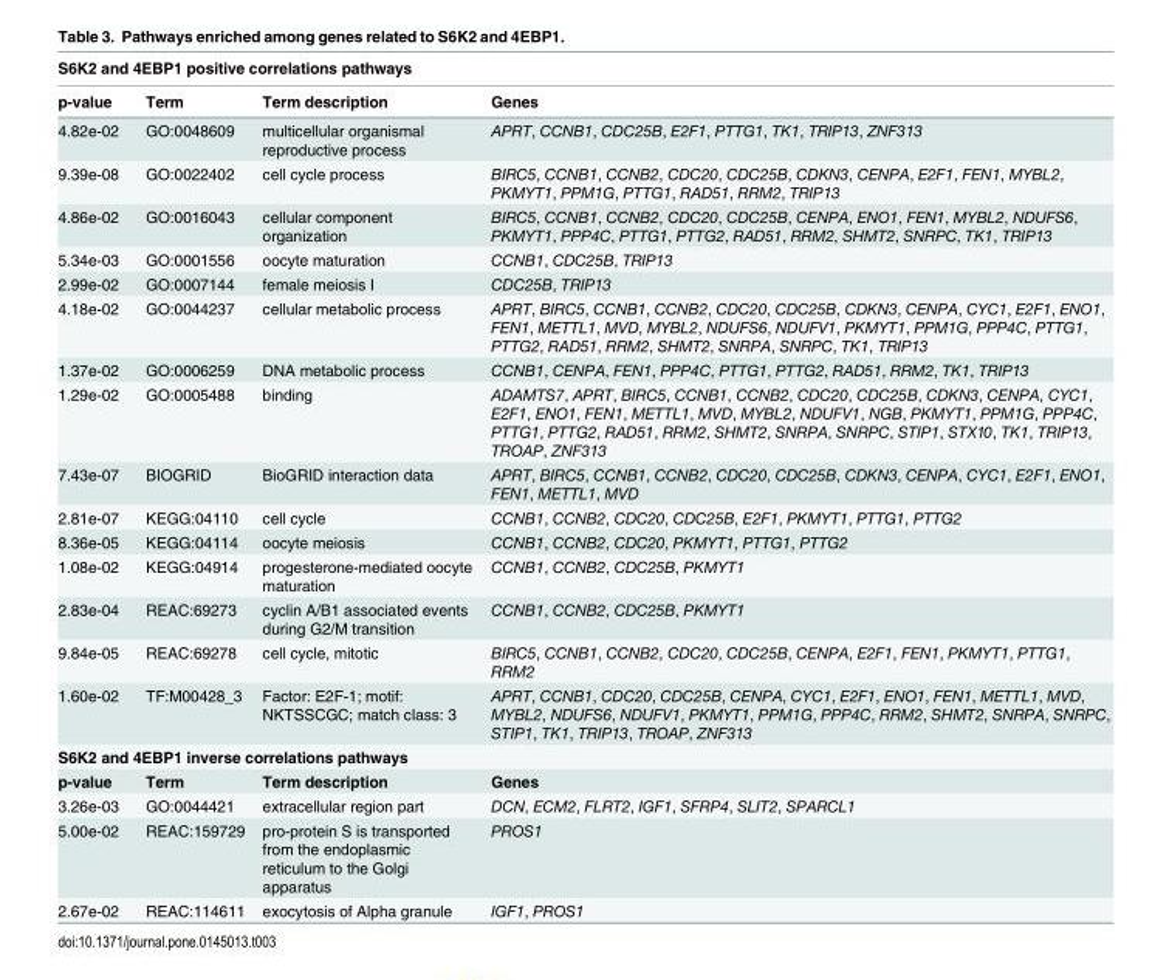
<table><thead><tr><td colspan="4">S6K2 and 4EBP1 positive correlations pathways</td></tr><tr><td>p-value</td><td>Term</td><td>Term description</td><td>Genes</td></tr></thead><tbody><tr><td>4.82e-02</td><td>GO:0048609</td><td>multicellular organismal reproductive process</td><td>APRT, CCNB1, CDC25B, E2F1, PTTG1, TK1, TRIP13, ZNF313</td></tr><tr><td>9.39e-08</td><td>GO:0022402</td><td>cell cycle process</td><td>BIRC5, CCNB1, CCNB2, CDC20, CDC25B, CDKN3, CENPA, E2F1, FEN1, MYBL2, PKMYT1, PPM1G, PTTG1, RAD51, RRM2, TRIP13</td></tr><tr><td>4.86e-02</td><td>GO:0016043</td><td>cellular component organization</td><td>BIRC5, CCNB1, CCNB2, CDC20, CDC25B, CENPA, ENO1, FEN1, MYBL2, NDUFS6, PKMYT1, PPP4C, PTTG1, PTTG2, RAD51, RRM2, SHMT2, SNRPC, TK1, TRIP13</td></tr><tr><td>5.34e-03</td><td>GO:0001556</td><td>oocyte maturation</td><td>CCNB1, CDC25B, TRIP13</td></tr><tr><td>2.99e-02</td><td>GO:0007144</td><td>female meiosis I</td><td>CDC25B, TRIP13</td></tr><tr><td>4.18e-02</td><td>GO:0044237</td><td>cellular metabolic process</td><td>APRT, BIRC5, CCNB1, CCNB2, CDC20, CDC25B, CDKN3, CENPA, CYC1, E2F1, ENO1, FEN1, METTL1, MVD, MYBL2, NDUFS6, NDUFV1, PKMYT1, PPM1G, PPP4C, PTTG1, PTTG2, RAD51, RRM2, SHMT2, SNRPA, SNRPC, TK1, TRIP13</td></tr><tr><td>1.37e-02</td><td>GO:0006259</td><td>DNA metabolic process</td><td>CCNB1, CENPA, FEN1, PPP4C, PTTG1, PTTG2, RAD51, RRM2, TK1, TRIP13</td></tr><tr><td>1.29e-02</td><td>GO:0005488</td><td>binding</td><td>ADAMTS7, APRT, BIRC5, CCNB1, CCNB2, CDC20, CDC25B, CDKN3, CENPA, CYC1, E2F1, ENO1, FEN1, METTL1, MVD, MYBL2, NDUFV1, NGB, PKMYT1, PPM1G, PPP4C, PTTG1, PTTG2, RAD51, RRM2, SHMT2, SNRPA, SNRPC, STIP1, STX10, TK1, TRIP13, TROAP, ZNF313</td></tr><tr><td>7.43e-07</td><td>BIOGRID</td><td>BioGRID interaction data</td><td>APRT, BIRC5, CCNB1, CCNB2, CDC20, CDC25B, CDKN3, CENPA, CYC1, E2F1, ENO1, FEN1, METTL1, MVD</td></tr><tr><td>2.81e-07</td><td>KEGG:04110</td><td>cell cycle</td><td>CCNB1, CCNB2, CDC20, CDC25B, E2F1, PKMYT1, PTTG1, PTTG2</td></tr><tr><td>8.36e-05</td><td>KEGG:04114</td><td>oocyte meiosis</td><td>CCNB1, CCNB2, CDC20, PKMYT1, PTTG1, PTTG2</td></tr><tr><td>1.08e-02</td><td>KEGG:04914</td><td>progesterone-mediated oocyte maturation</td><td>CCNB1, CCNB2, CDC25B, PKMYT1</td></tr><tr><td>2.83e-04</td><td>REAC:69273</td><td>cyclin A/B1 associated events during G2/M transition</td><td>CCNB1, CCNB2, CDC25B, PKMYT1</td></tr><tr><td>9.84e-05</td><td>REAC:69278</td><td>cell cycle, mitotic</td><td>BIRC5, CCNB1, CCNB2, CDC20, CDC25B, CENPA, E2F1, FEN1, PKMYT1, PTTG1, RRM2</td></tr><tr><td>1.60e-02</td><td>TF:M00428_3</td><td>Factor: E2F-1; motif: NKTSSCGC; match class: 3</td><td>APRT, CCNB1, CDC20, CDC25B, CENPA, CYC1, E2F1, ENO1, FEN1, METTL1, MVD, MYBL2, NDUFS6, NDUFV1, PKMYT1, PPM1G, PPP4C, RRM2, SHMT2, SNRPA, SNRPC, STIP1, TK1, TRIP13, TROAP, ZNF313</td></tr><tr><td colspan="4">S6K2 and 4EBP1 inverse correlations pathways</td></tr><tr><td>p-value</td><td>Term</td><td>Term description</td><td>Genes</td></tr><tr><td>3.26e-03</td><td>GO:0044421</td><td>extracellular region part</td><td>DCN, ECM2, FLRT2, IGF1, SFRP4, SLIT2, SPARCL1</td></tr><tr><td>5.00e-02</td><td>REAC:159729</td><td>pro-protein S is transported from the endoplasmic reticulum to the Golgi apparatus</td><td>PROS1</td></tr><tr><td>2.67e-02</td><td>REAC:114611</td><td>exocytosis of Alpha granule</td><td>IGF1, PROS1</td></tr></tbody></table>